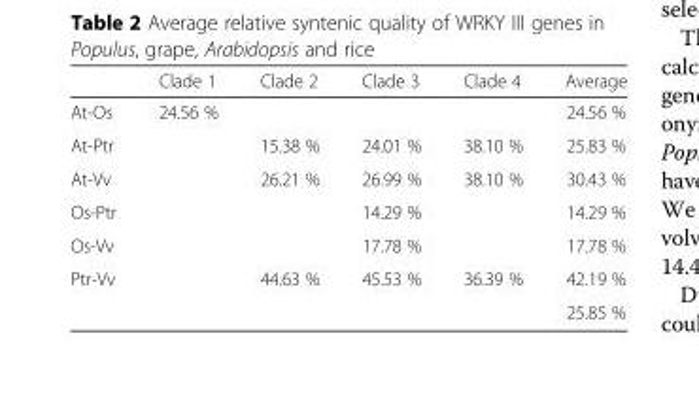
<table><thead><tr><td></td><td>Clade 1</td><td>Clade 2</td><td>Clade 3</td><td>Clade 4</td><td>Average</td></tr></thead><tbody><tr><td>At-Os</td><td>24.56 %</td><td></td><td></td><td></td><td>24.56 %</td></tr><tr><td>At-Ptr</td><td></td><td>15.38 %</td><td>24.01 %</td><td>38.10 %</td><td>25.83 %</td></tr><tr><td>At-Vv</td><td></td><td>26.21 %</td><td>26.99 %</td><td>38.10 %</td><td>30.43 %</td></tr><tr><td>Os-Ptr</td><td></td><td></td><td>14.29 %</td><td></td><td>14.29 %</td></tr><tr><td>Os-Vv</td><td></td><td></td><td>17.78 %</td><td></td><td>17.78 %</td></tr><tr><td rowspan="2">Ptr-Vv</td><td></td><td>44.63 %</td><td>45.53 %</td><td>36.39 %</td><td>42.19 %</td></tr><tr><td></td><td></td><td></td><td></td><td>25.85 %</td></tr></tbody></table>